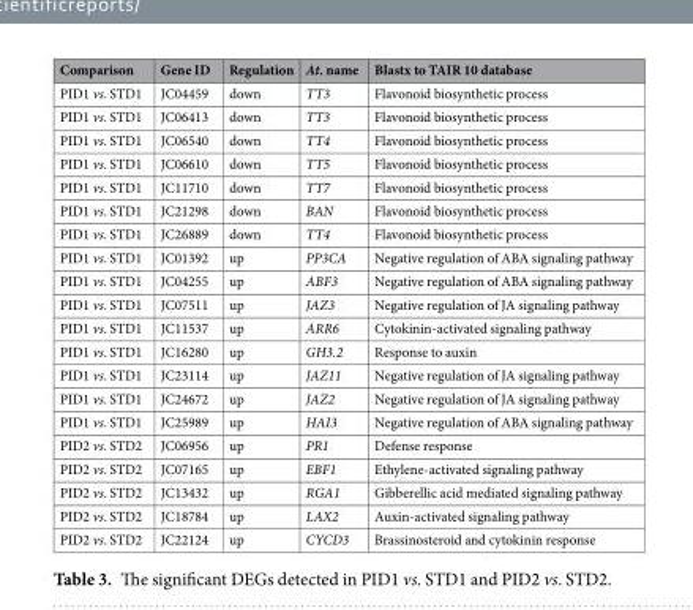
<table><thead><tr><td>Comparison</td><td>Gene ID</td><td>Regulation</td><td>At. name</td><td>Blastx to TAIR 10 database</td></tr></thead><tbody><tr><td>PID1 vs. STD1</td><td>JC04459</td><td>down</td><td>TT3</td><td>Flavonoid biosynthetic process</td></tr><tr><td>PID1 vs. STD1</td><td>JC06413</td><td>down</td><td>TT3</td><td>Flavonoid biosynthetic process</td></tr><tr><td>PID1 vs. STD1</td><td>JC06540</td><td>down</td><td>TT4</td><td>Flavonoid biosynthetic process</td></tr><tr><td>PID1 vs. STD1</td><td>JC06610</td><td>down</td><td>TT5</td><td>Flavonoid biosynthetic process</td></tr><tr><td>PID1 vs. STD1</td><td>JC11710</td><td>down</td><td>TT7</td><td>Flavonoid biosynthetic process</td></tr><tr><td>PID1 vs. STD1</td><td>JC21298</td><td>down</td><td>BAN</td><td>Flavonoid biosynthetic process</td></tr><tr><td>PID1 vs. STD1</td><td>JC26889</td><td>down</td><td>TT4</td><td>Flavonoid biosynthetic process</td></tr><tr><td>PID1 vs. STD1</td><td>JC01392</td><td>up</td><td>PP3CA</td><td>Negative regulation of ABA signaling pathway</td></tr><tr><td>PID1 vs. STD1</td><td>JC04255</td><td>up</td><td>ABF3</td><td>Negative regulation of ABA signaling pathway</td></tr><tr><td>PID1 vs. STD1</td><td>JC07511</td><td>up</td><td>JAZ3</td><td>Negative regulation of JA signaling pathway</td></tr><tr><td>PID1 vs. STD1</td><td>JC11537</td><td>up</td><td>ARR6</td><td>Cytokinin-activated signaling pathway</td></tr><tr><td>PID1 vs. STD1</td><td>JC16280</td><td>up</td><td>GH3.2</td><td>Response to auxin</td></tr><tr><td>PID1 vs. STD1</td><td>JC23114</td><td>up</td><td>JAZ11</td><td>Negative regulation of JA signaling pathway</td></tr><tr><td>PID1 vs. STD1</td><td>JC24672</td><td>up</td><td>JAZ2</td><td>Negative regulation of JA signaling pathway</td></tr><tr><td>PID1 vs. STD1</td><td>JC25989</td><td>up</td><td>HAI3</td><td>Negative regulation of ABA signaling pathway</td></tr><tr><td>PID2 vs. STD2</td><td>JC06956</td><td>up</td><td>PR1</td><td>Defense response</td></tr><tr><td>PID2 vs. STD2</td><td>JC07165</td><td>up</td><td>EBF1</td><td>Ethylene-activated signaling pathway</td></tr><tr><td>PID2 vs. STD2</td><td>JC13432</td><td>up</td><td>RGA1</td><td>Gibberellic acid mediated signaling pathway</td></tr><tr><td>PID2 vs. STD2</td><td>JC18784</td><td>up</td><td>LAX2</td><td>Auxin-activated signaling pathway</td></tr><tr><td>PID2 vs. STD2</td><td>JC22124</td><td>up</td><td>CYCD3</td><td>Brassinosteroid and cytokinin response</td></tr></tbody></table>